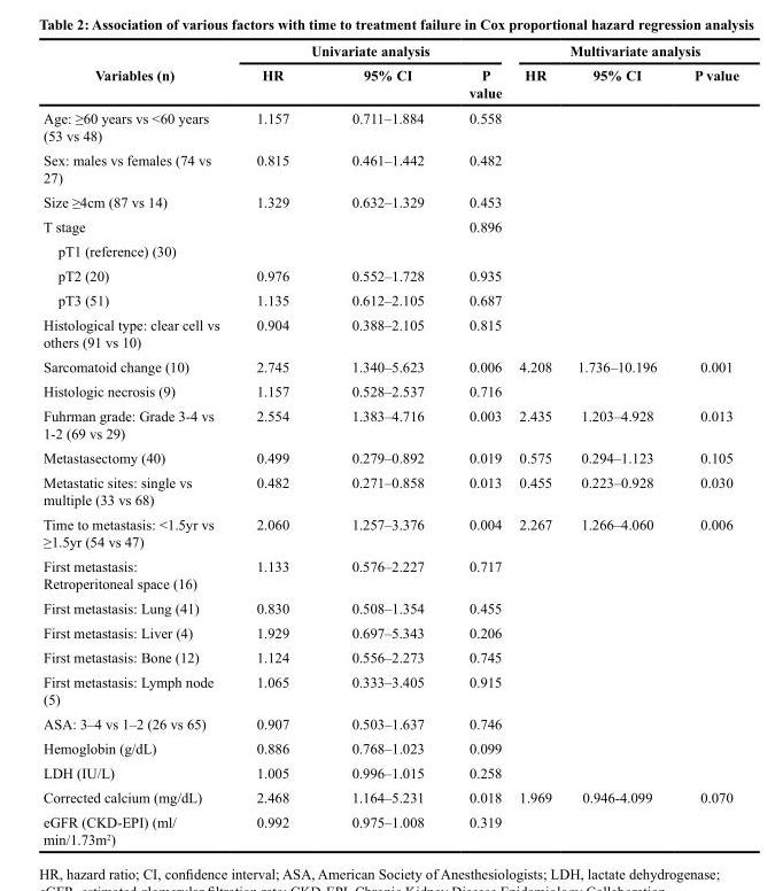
<table><thead><tr><td rowspan="2">Variables (n)</td><td colspan="3">Univariate analysis</td><td colspan="3">Multivariate analysis</td></tr><tr><td>HR</td><td>95% CI</td><td>P value</td><td>HR</td><td>95% CI</td><td>P value</td></tr></thead><tbody><tr><td>Age: ≥60 years vs &lt;60 years (53 vs 48)</td><td>1.157</td><td>0.711–1.884</td><td>0.558</td><td></td><td></td><td></td></tr><tr><td>Sex: males vs females (74 vs 27)</td><td>0.815</td><td>0.461–1.442</td><td>0.482</td><td></td><td></td><td></td></tr><tr><td>Size ≥4cm (87 vs 14)</td><td>1.329</td><td>0.632–1.329</td><td>0.453</td><td></td><td></td><td></td></tr><tr><td>T stage</td><td></td><td></td><td>0.896</td><td></td><td></td><td></td></tr><tr><td colspan="7">pT1 (reference) (30)</td></tr><tr><td>pT2 (20)</td><td>0.976</td><td>0.552–1.728</td><td>0.935</td><td></td><td></td><td></td></tr><tr><td>pT3 (51)</td><td>1.135</td><td>0.612–2.105</td><td>0.687</td><td></td><td></td><td></td></tr><tr><td>Histological type: clear cell vs others (91 vs 10)</td><td>0.904</td><td>0.388–2.105</td><td>0.815</td><td></td><td></td><td></td></tr><tr><td>Sarcomatoid change (10)</td><td>2.745</td><td>1.340–5.623</td><td>0.006</td><td>4.208</td><td>1.736–10.196</td><td>0.001</td></tr><tr><td>Histologic necrosis (9)</td><td>1.157</td><td>0.528–2.537</td><td>0.716</td><td></td><td></td><td></td></tr><tr><td>Fuhrman grade: Grade 3-4 vs 1-2 (69 vs 29)</td><td>2.554</td><td>1.383–4.716</td><td>0.003</td><td>2.435</td><td>1.203–4.928</td><td>0.013</td></tr><tr><td>Metastasectomy (40)</td><td>0.499</td><td>0.279–0.892</td><td>0.019</td><td>0.575</td><td>0.294–1.123</td><td>0.105</td></tr><tr><td>Metastatic sites: single vs multiple (33 vs 68)</td><td>0.482</td><td>0.271–0.858</td><td>0.013</td><td>0.455</td><td>0.223–0.928</td><td>0.030</td></tr><tr><td>Time to metastasis: &lt;1.5yr vs ≥1.5yr (54 vs 47)</td><td>2.060</td><td>1.257–3.376</td><td>0.004</td><td>2.267</td><td>1.266–4.060</td><td>0.006</td></tr><tr><td>First metastasis: Retroperitoneal space (16)</td><td>1.133</td><td>0.576–2.227</td><td>0.717</td><td></td><td></td><td></td></tr><tr><td>First metastasis: Lung (41)</td><td>0.830</td><td>0.508–1.354</td><td>0.455</td><td></td><td></td><td></td></tr><tr><td>First metastasis: Liver (4)</td><td>1.929</td><td>0.697–5.343</td><td>0.206</td><td></td><td></td><td></td></tr><tr><td>First metastasis: Bone (12)</td><td>1.124</td><td>0.556–2.273</td><td>0.745</td><td></td><td></td><td></td></tr><tr><td>First metastasis: Lymph node (5)</td><td>1.065</td><td>0.333–3.405</td><td>0.915</td><td></td><td></td><td></td></tr><tr><td>ASA: 3–4 vs 1–2 (26 vs 65)</td><td>0.907</td><td>0.503–1.637</td><td>0.746</td><td></td><td></td><td></td></tr><tr><td>Hemoglobin (g/dL)</td><td>0.886</td><td>0.768–1.023</td><td>0.099</td><td></td><td></td><td></td></tr><tr><td>LDH (IU/L)</td><td>1.005</td><td>0.996–1.015</td><td>0.258</td><td></td><td></td><td></td></tr><tr><td>Corrected calcium (mg/dL)</td><td>2.468</td><td>1.164–5.231</td><td>0.018</td><td>1.969</td><td>0.946-4.099</td><td>0.070</td></tr><tr><td>eGFR (CKD-EPI) (ml/ min/1.73m<sup>2</sup>)</td><td>0.992</td><td>0.975–1.008</td><td>0.319</td><td></td><td></td><td></td></tr></tbody></table>